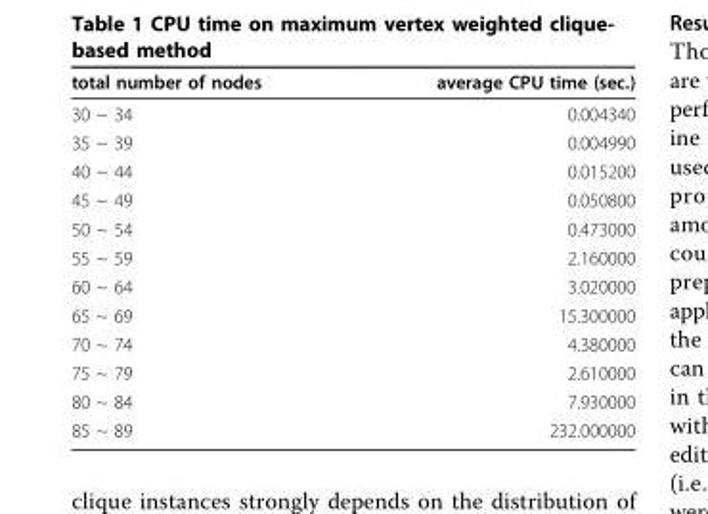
<table><thead><tr><td>total number of nodes</td><td>average CPU time (sec.)</td></tr></thead><tbody><tr><td>30 ~ 34</td><td>0.004340</td></tr><tr><td>35 ~ 39</td><td>0.004990</td></tr><tr><td>40 ~ 44</td><td>0.015200</td></tr><tr><td>45 ~ 49</td><td>0.050800</td></tr><tr><td>50 ~ 54</td><td>0.473000</td></tr><tr><td>55 ~ 59</td><td>2.160000</td></tr><tr><td>60 ~ 64</td><td>3.020000</td></tr><tr><td>65 ~ 69</td><td>15.300000</td></tr><tr><td>70 ~ 74</td><td>4.380000</td></tr><tr><td>75 ~ 79</td><td>2.610000</td></tr><tr><td>80 ~ 84</td><td>7.930000</td></tr><tr><td>85 ~ 89</td><td>232.000000</td></tr></tbody></table>